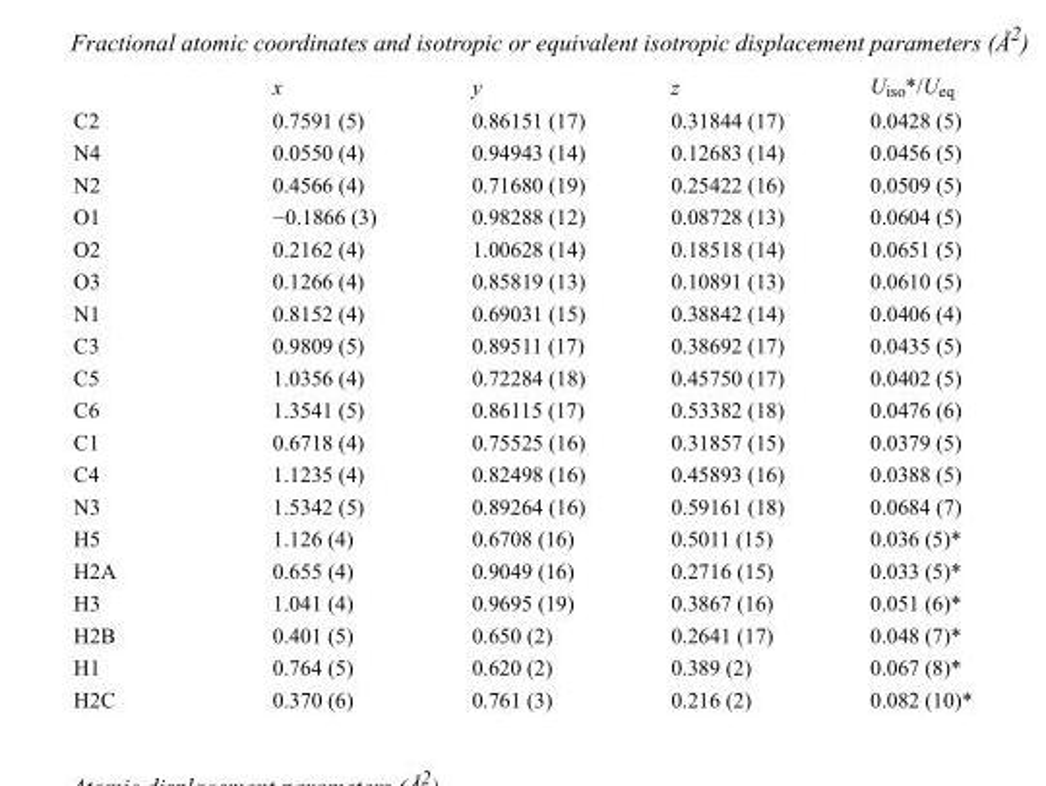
<table><thead><tr><td></td><td>x</td><td>y</td><td>z</td><td>U<sub>iso</sub>*/U<sub>eq</sub></td></tr></thead><tbody><tr><td>C2</td><td>0.7591 (5)</td><td>0.86151 (17)</td><td>0.31844 (17)</td><td>0.0428 (5)</td></tr><tr><td>N4</td><td>0.0550 (4)</td><td>0.94943 (14)</td><td>0.12683 (14)</td><td>0.0456 (5)</td></tr><tr><td>N2</td><td>0.4566 (4)</td><td>0.71680 (19)</td><td>0.25422 (16)</td><td>0.0509 (5)</td></tr><tr><td>O1</td><td>−0.1866 (3)</td><td>0.98288 (12)</td><td>0.08728 (13)</td><td>0.0604 (5)</td></tr><tr><td>O2</td><td>0.2162 (4)</td><td>1.00628 (14)</td><td>0.18518 (14)</td><td>0.0651 (5)</td></tr><tr><td>O3</td><td>0.1266 (4)</td><td>0.85819 (13)</td><td>0.10891 (13)</td><td>0.0610 (5)</td></tr><tr><td>N1</td><td>0.8152 (4)</td><td>0.69031 (15)</td><td>0.38842 (14)</td><td>0.0406 (4)</td></tr><tr><td>C3</td><td>0.9809 (5)</td><td>0.89511 (17)</td><td>0.38692 (17)</td><td>0.0435 (5)</td></tr><tr><td>C5</td><td>1.0356 (4)</td><td>0.72284 (18)</td><td>0.45750 (17)</td><td>0.0402 (5)</td></tr><tr><td>C6</td><td>1.3541 (5)</td><td>0.86115 (17)</td><td>0.53382 (18)</td><td>0.0476 (6)</td></tr><tr><td>C1</td><td>0.6718 (4)</td><td>0.75525 (16)</td><td>0.31857 (15)</td><td>0.0379 (5)</td></tr><tr><td>C4</td><td>1.1235 (4)</td><td>0.82498 (16)</td><td>0.45893 (16)</td><td>0.0388 (5)</td></tr><tr><td>N3</td><td>1.5342 (5)</td><td>0.89264 (16)</td><td>0.59161 (18)</td><td>0.0684 (7)</td></tr><tr><td>H5</td><td>1.126 (4)</td><td>0.6708 (16)</td><td>0.5011 (15)</td><td>0.036 (5)*</td></tr><tr><td>H2A</td><td>0.655 (4)</td><td>0.9049 (16)</td><td>0.2716 (15)</td><td>0.033 (5)*</td></tr><tr><td>H3</td><td>1.041 (4)</td><td>0.9695 (19)</td><td>0.3867 (16)</td><td>0.051 (6)*</td></tr><tr><td>H2B</td><td>0.401 (5)</td><td>0.650 (2)</td><td>0.2641 (17)</td><td>0.048 (7)*</td></tr><tr><td>H1</td><td>0.764 (5)</td><td>0.620 (2)</td><td>0.389 (2)</td><td>0.067 (8)*</td></tr><tr><td>H2C</td><td>0.370 (6)</td><td>0.761 (3)</td><td>0.216 (2)</td><td>0.082 (10)*</td></tr></tbody></table>